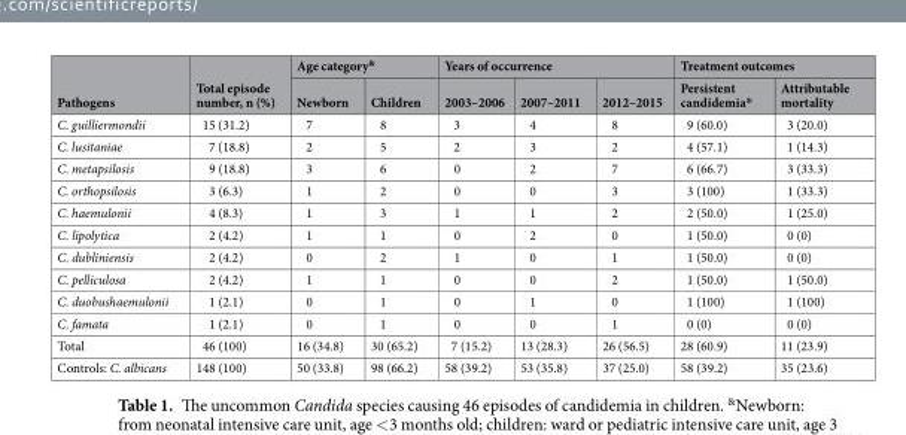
<table><thead><tr><td rowspan="2">Pathogens</td><td rowspan="2">Total episode number, n (%)</td><td colspan="2">Age category<sup>&amp;</sup></td><td colspan="3">Years of occurrence</td><td colspan="2">Treatment outcomes</td></tr><tr><td>Newborn</td><td>Children</td><td>2003–2006</td><td>2007–2011</td><td>2012–2015</td><td>Persistent candidemia*</td><td>Attributable mortality</td></tr></thead><tbody><tr><td>C. guilliermondii</td><td>15 (31.2)</td><td>7</td><td>8</td><td>3</td><td>4</td><td>8</td><td>9 (60.0)</td><td>3 (20.0)</td></tr><tr><td>C. lusitaniae</td><td>7 (18.8)</td><td>2</td><td>5</td><td>2</td><td>3</td><td>2</td><td>4 (57.1)</td><td>1 (14.3)</td></tr><tr><td>C. metapsilosis</td><td>9 (18.8)</td><td>3</td><td>6</td><td>0</td><td>2</td><td>7</td><td>6 (66.7)</td><td>3 (33.3)</td></tr><tr><td>C. orthopsilosis</td><td>3 (6.3)</td><td>1</td><td>2</td><td>0</td><td>0</td><td>3</td><td>3 (100)</td><td>1 (33.3)</td></tr><tr><td>C. haemulonii</td><td>4 (8.3)</td><td>1</td><td>3</td><td>1</td><td>1</td><td>2</td><td>2 (50.0)</td><td>1 (25.0)</td></tr><tr><td>C. lipolytica</td><td>2 (4.2)</td><td>1</td><td>1</td><td>0</td><td>2</td><td>0</td><td>1 (50.0)</td><td>0 (0)</td></tr><tr><td>C. dubliniensis</td><td>2 (4.2)</td><td>0</td><td>2</td><td>1</td><td>0</td><td>1</td><td>1 (50.0)</td><td>0 (0)</td></tr><tr><td>C. pelliculosa</td><td>2 (4.2)</td><td>1</td><td>1</td><td>0</td><td>0</td><td>2</td><td>1 (50.0)</td><td>1 (50.0)</td></tr><tr><td>C. duobushaemulonii</td><td>1 (2.1)</td><td>0</td><td>1</td><td>0</td><td>1</td><td>0</td><td>1 (100)</td><td>1 (100)</td></tr><tr><td>C. famata</td><td>1 (2.1)</td><td>0</td><td>1</td><td>0</td><td>0</td><td>1</td><td>0 (0)</td><td>0 (0)</td></tr><tr><td>Total</td><td>46 (100)</td><td>16 (34.8)</td><td>30 (65.2)</td><td>7 (15.2)</td><td>13 (28.3)</td><td>26 (56.5)</td><td>28 (60.9)</td><td>11 (23.9)</td></tr><tr><td>Controls: C. albicans</td><td>148 (100)</td><td>50 (33.8)</td><td>98 (66.2)</td><td>58 (39.2)</td><td>53 (35.8)</td><td>37 (25.0)</td><td>58 (39.2)</td><td>35 (23.6)</td></tr></tbody></table>